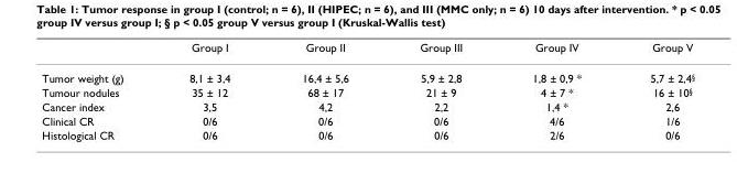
<table><thead><tr><td></td><td>Group I</td><td>Group II</td><td>Group III</td><td>Group IV</td><td>Group V</td></tr></thead><tbody><tr><td>Tumor weight (g)</td><td>8,1 ± 3,4</td><td>16,4 ± 5,6</td><td>5,9 ± 2,8</td><td>1,8 ± 0,9 *</td><td>5,7 ± 2,4§</td></tr><tr><td>Tumour nodules</td><td>35 ± 12</td><td>68 ± 17</td><td>21 ± 9</td><td>4 ± 7 *</td><td>16 ± 10§</td></tr><tr><td>Cancer index</td><td>3,5</td><td>4,2</td><td>2,2</td><td>1,4 *</td><td>2,6</td></tr><tr><td>Clinical CR</td><td>0/6</td><td>0/6</td><td>0/6</td><td>4/6</td><td>1/6</td></tr><tr><td>Histological CR</td><td>0/6</td><td>0/6</td><td>0/6</td><td>2/6</td><td>0/6</td></tr></tbody></table>